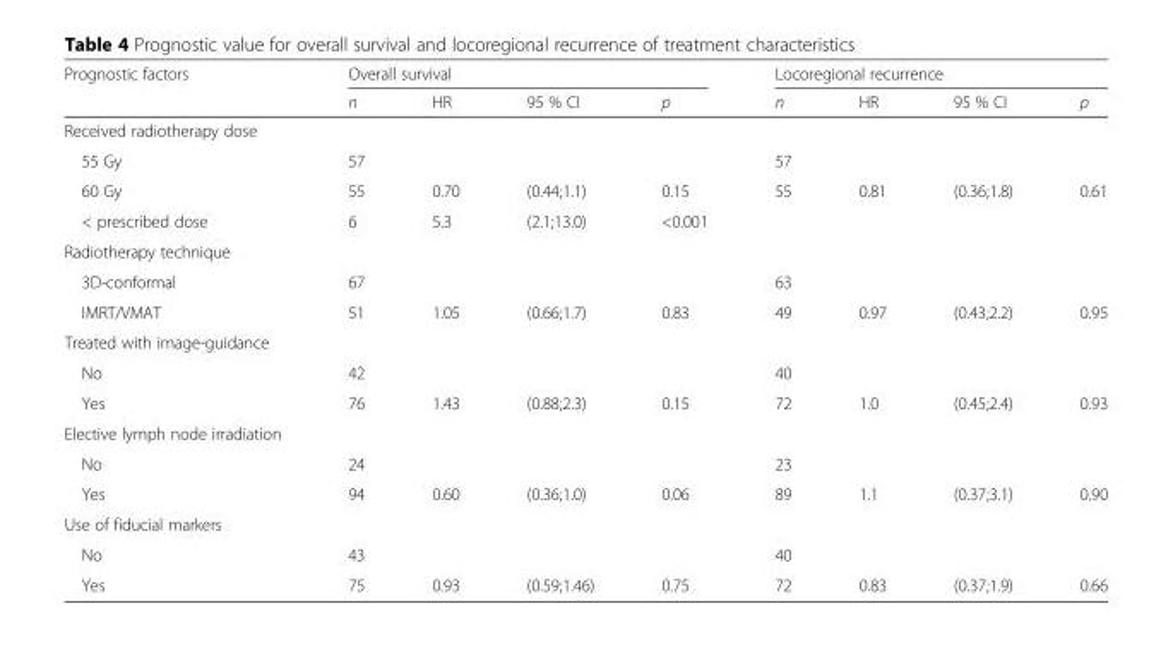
<table><thead><tr><td rowspan="2">Prognostic factors</td><td colspan="4">Overall survival</td><td colspan="4">Locoregional recurrence</td></tr><tr><td>n</td><td>HR</td><td>95 % CI</td><td>p</td><td>n</td><td>HR</td><td>95 % CI</td><td>p</td></tr></thead><tbody><tr><td colspan="9">Received radiotherapy dose</td></tr><tr><td>55 Gy</td><td>57</td><td></td><td></td><td></td><td>57</td><td></td><td></td><td></td></tr><tr><td>60 Gy</td><td>55</td><td>0.70</td><td>(0.44;1.1)</td><td>0.15</td><td>55</td><td>0.81</td><td>(0.36;1.8)</td><td>0.61</td></tr><tr><td>&lt; prescribed dose</td><td>6</td><td>5.3</td><td>(2.1;13.0)</td><td>&lt;0.001</td><td></td><td></td><td></td><td></td></tr><tr><td colspan="9">Radiotherapy technique</td></tr><tr><td>3D-conformal</td><td>67</td><td></td><td></td><td></td><td>63</td><td></td><td></td><td></td></tr><tr><td>IMRT/VMAT</td><td>51</td><td>1.05</td><td>(0.66;1.7)</td><td>0.83</td><td>49</td><td>0.97</td><td>(0.43;2.2)</td><td>0.95</td></tr><tr><td colspan="9">Treated with image-guidance</td></tr><tr><td>No</td><td>42</td><td></td><td></td><td></td><td>40</td><td></td><td></td><td></td></tr><tr><td>Yes</td><td>76</td><td>1.43</td><td>(0.88;2.3)</td><td>0.15</td><td>72</td><td>1.0</td><td>(0.45;2.4)</td><td>0.93</td></tr><tr><td colspan="9">Elective lymph node irradiation</td></tr><tr><td>No</td><td>24</td><td></td><td></td><td></td><td>23</td><td></td><td></td><td></td></tr><tr><td>Yes</td><td>94</td><td>0.60</td><td>(0.36;1.0)</td><td>0.06</td><td>89</td><td>1.1</td><td>(0.37;3.1)</td><td>0.90</td></tr><tr><td colspan="9">Use of fiducial markers</td></tr><tr><td>No</td><td>43</td><td></td><td></td><td></td><td>40</td><td></td><td></td><td></td></tr><tr><td>Yes</td><td>75</td><td>0.93</td><td>(0.59;1.46)</td><td>0.75</td><td>72</td><td>0.83</td><td>(0.37;1.9)</td><td>0.66</td></tr></tbody></table>